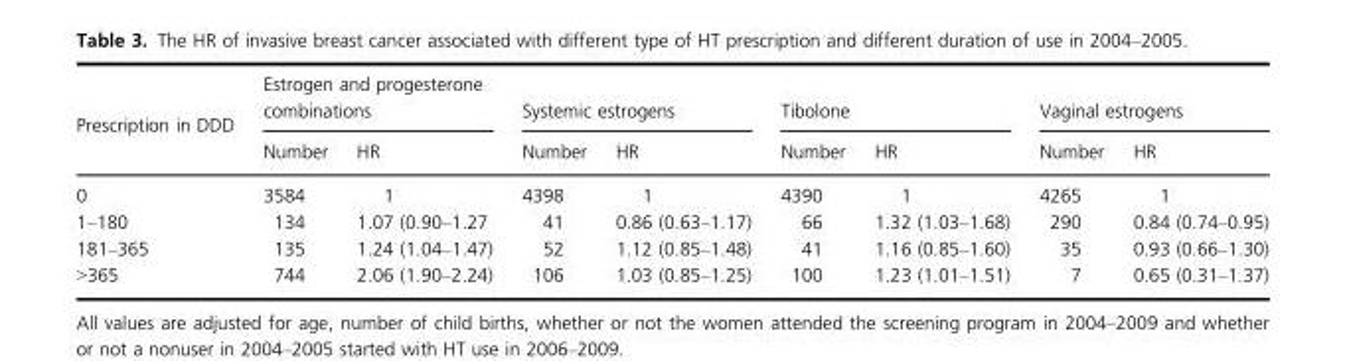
<table><thead><tr><td rowspan="2">Prescription in DDD</td><td colspan="2">Estrogen and progesterone combinations</td><td colspan="2">Systemic estrogens</td><td colspan="2">Tibolone</td><td colspan="2">Vaginal estrogens</td></tr><tr><td>Number</td><td>HR</td><td>Number</td><td>HR</td><td>Number</td><td>HR</td><td>Number</td><td>HR</td></tr></thead><tbody><tr><td>0</td><td>3584</td><td>1</td><td>4398</td><td>1</td><td>4390</td><td>1</td><td>4265</td><td>1</td></tr><tr><td>1–180</td><td>134</td><td>1.07 (0.90–1.27</td><td>41</td><td>0.86 (0.63–1.17)</td><td>66</td><td>1.32 (1.03–1.68)</td><td>290</td><td>0.84 (0.74–0.95)</td></tr><tr><td>181–365</td><td>135</td><td>1.24 (1.04–1.47)</td><td>52</td><td>1.12 (0.85–1.48)</td><td>41</td><td>1.16 (0.85–1.60)</td><td>35</td><td>0.93 (0.66–1.30)</td></tr><tr><td>&gt;365</td><td>744</td><td>2.06 (1.90–2.24)</td><td>106</td><td>1.03 (0.85–1.25)</td><td>100</td><td>1.23 (1.01–1.51)</td><td>7</td><td>0.65 (0.31–1.37)</td></tr></tbody></table>